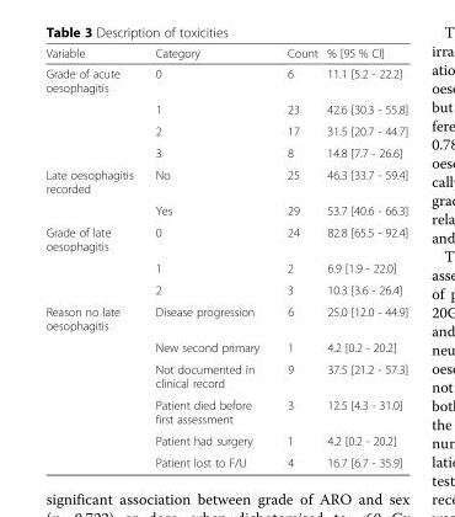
<table><thead><tr><td>Variable</td><td>Category</td><td>Count</td><td>% [95 % CI]</td></tr></thead><tbody><tr><td rowspan="4">Grade of acute oesophagitis</td><td>0</td><td>6</td><td>11.1 [5.2 - 22.2]</td></tr><tr><td>1</td><td>23</td><td>42.6 [30.3 - 55.8]</td></tr><tr><td>2</td><td>17</td><td>31.5 [20.7 - 44.7]</td></tr><tr><td>3</td><td>8</td><td>14.8 [7.7 - 26.6]</td></tr><tr><td rowspan="2">Late oesophagitis recorded</td><td>No</td><td>25</td><td>46.3 [33.7 - 59.4]</td></tr><tr><td>Yes</td><td>29</td><td>53.7 [40.6 - 66.3]</td></tr><tr><td rowspan="3">Grade of late oesophagitis</td><td>0</td><td>24</td><td>82.8 [65.5 - 92.4]</td></tr><tr><td>1</td><td>2</td><td>6.9 [1.9 - 22.0]</td></tr><tr><td>2</td><td>3</td><td>10.3 [3.6 - 26.4]</td></tr><tr><td rowspan="6">Reason no late oesophagitis</td><td>Disease progression</td><td>6</td><td>25.0 [12.0 - 44.9]</td></tr><tr><td>New second primary</td><td>1</td><td>4.2 [0.2 - 20.2]</td></tr><tr><td>Not documented in clinical record</td><td>9</td><td>37.5 [21.2 - 57.3]</td></tr><tr><td>Patient died before first assessment</td><td>3</td><td>12.5 [4.3 - 31.0]</td></tr><tr><td>Patient had surgery</td><td>1</td><td>4.2 [0.2 - 20.2]</td></tr><tr><td>Patient lost to F/U</td><td>4</td><td>16.7 [6.7 - 35.9]</td></tr></tbody></table>